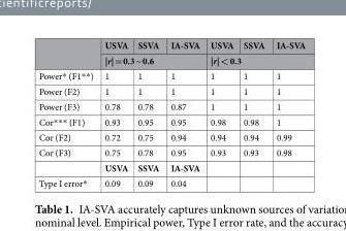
<table><thead><tr><td rowspan="2"></td><td>USVA</td><td>SSVA</td><td>IA-SVA</td><td>USVA</td><td>SSVA</td><td>IA-SVA</td></tr><tr><td colspan="3">|r| = 0.3 ~ 0.6</td><td colspan="3">|r| &lt; 0.3</td></tr></thead><tbody><tr><td>Power* (F1**)</td><td>1</td><td>1</td><td>1</td><td>1</td><td>1</td><td>1</td></tr><tr><td>Power (F2)</td><td>1</td><td>1</td><td>1</td><td>1</td><td>1</td><td>1</td></tr><tr><td>Power (F3)</td><td>0.78</td><td>0.78</td><td>0.87</td><td>1</td><td>1</td><td>1</td></tr><tr><td>Cor*** (F1)</td><td>0.93</td><td>0.95</td><td>0.95</td><td>0.98</td><td>0.98</td><td>1</td></tr><tr><td>Cor (F2)</td><td>0.72</td><td>0.75</td><td>0.94</td><td>0.94</td><td>0.94</td><td>0.99</td></tr><tr><td rowspan="2">Cor (F3)</td><td>0.75</td><td>0.78</td><td>0.95</td><td>0.93</td><td>0.93</td><td>0.98</td></tr><tr><td>USVA</td><td>SSVA</td><td>IA-SVA</td><td></td><td></td><td></td></tr><tr><td>Type I error*</td><td>0.09</td><td>0.09</td><td>0.04</td><td></td><td></td><td></td></tr></tbody></table>